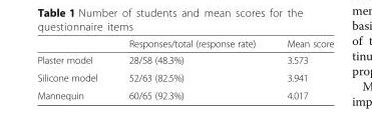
<table><thead><tr><td></td><td>Responses/total (response rate)</td><td>Mean score</td></tr></thead><tbody><tr><td>Plaster model</td><td>28/58 (48.3%)</td><td>3.573</td></tr><tr><td>Silicone model</td><td>52/63 (82.5%)</td><td>3.941</td></tr><tr><td>Mannequin</td><td>60/65 (92.3%)</td><td>4.017</td></tr></tbody></table>